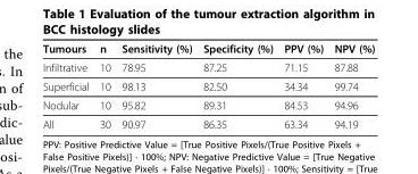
<table><thead><tr><td>Tumours</td><td>n</td><td>Sensitivity (%)</td><td>Specificity (%)</td><td>PPV (%)</td><td>NPV (%)</td></tr></thead><tbody><tr><td>Infiltrative</td><td>10</td><td>78.95</td><td>87.25</td><td>71.15</td><td>87.88</td></tr><tr><td>Superficial</td><td>10</td><td>98.13</td><td>82.50</td><td>34.34</td><td>99.74</td></tr><tr><td>Nodular</td><td>10</td><td>95.82</td><td>89.31</td><td>84.53</td><td>94.96</td></tr><tr><td>All</td><td>30</td><td>90.97</td><td>86.35</td><td>63.34</td><td>94.19</td></tr></tbody></table>